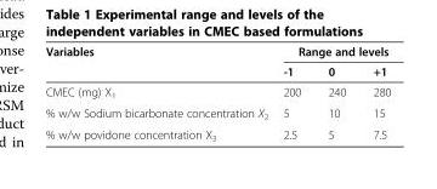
<table><thead><tr><td rowspan="2">Variables</td><td colspan="3">Range and levels</td></tr><tr><td>-1</td><td>0</td><td>+1</td></tr></thead><tbody><tr><td>CMEC (mg) X<sub>1</sub></td><td>200</td><td>240</td><td>280</td></tr><tr><td>% w/w Sodium bicarbonate concentration X<sub>2</sub></td><td>5</td><td>10</td><td>15</td></tr><tr><td>% w/w povidone concentration X<sub>3</sub></td><td>2.5</td><td>5</td><td>7.5</td></tr></tbody></table>